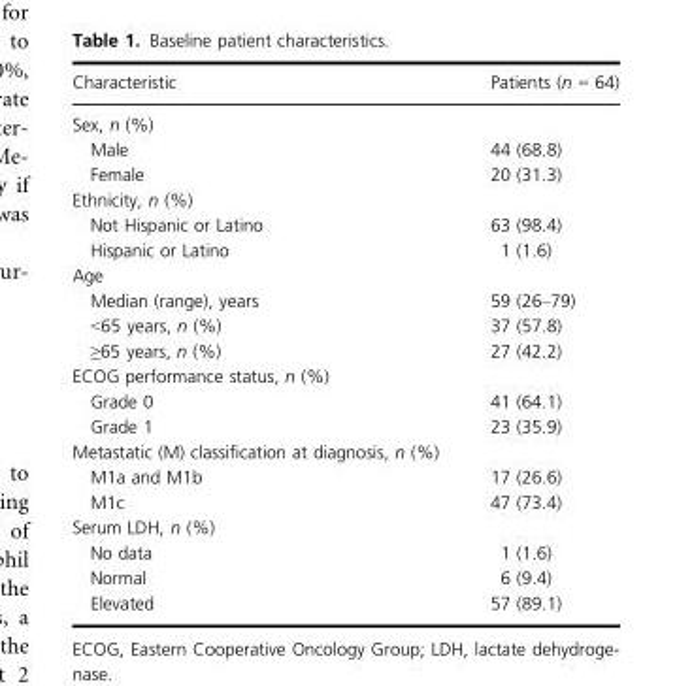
<table><thead><tr><td>Characteristic</td><td>Patients (n = 64)</td></tr></thead><tbody><tr><td colspan="2">Sex, n (%)</td></tr><tr><td>Male</td><td>44 (68.8)</td></tr><tr><td>Female</td><td>20 (31.3)</td></tr><tr><td colspan="2">Ethnicity, n (%)</td></tr><tr><td>Not Hispanic or Latino</td><td>63 (98.4)</td></tr><tr><td>Hispanic or Latino</td><td>1 (1.6)</td></tr><tr><td colspan="2">Age</td></tr><tr><td>Median (range), years</td><td>59 (26–79)</td></tr><tr><td>&lt;65 years, n (%)</td><td>37 (57.8)</td></tr><tr><td>≥65 years, n (%)</td><td>27 (42.2)</td></tr><tr><td colspan="2">ECOG performance status, n (%)</td></tr><tr><td>Grade 0</td><td>41 (64.1)</td></tr><tr><td>Grade 1</td><td>23 (35.9)</td></tr><tr><td colspan="2">Metastatic (M) classification at diagnosis, n (%)</td></tr><tr><td>M1a and M1b</td><td>17 (26.6)</td></tr><tr><td>M1c</td><td>47 (73.4)</td></tr><tr><td colspan="2">Serum LDH, n (%)</td></tr><tr><td>No data</td><td>1 (1.6)</td></tr><tr><td>Normal</td><td>6 (9.4)</td></tr><tr><td>Elevated</td><td>57 (89.1)</td></tr></tbody></table>